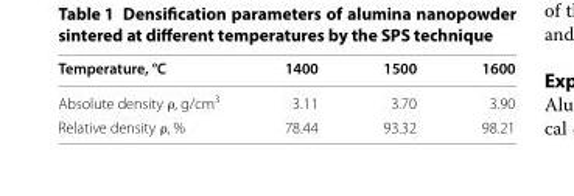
<table><thead><tr><td>Temperature, °C</td><td>1400</td><td>1500</td><td>1600</td></tr></thead><tbody><tr><td>Absolute density ρ, g/cm<sup>3</sup></td><td>3.11</td><td>3.70</td><td>3.90</td></tr><tr><td>Relative density ρ, %</td><td>78.44</td><td>93.32</td><td>98.21</td></tr></tbody></table>